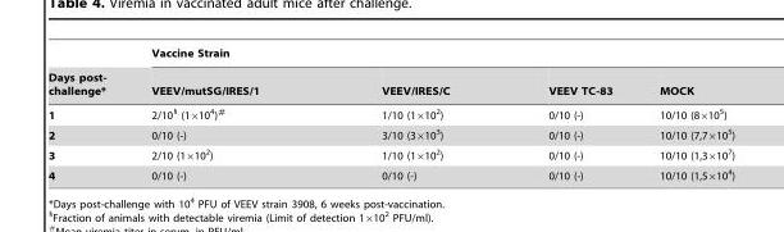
<table><thead><tr><td rowspan="2">Days post- challenge*</td><td colspan="4">Vaccine Strain</td></tr><tr><td>VEEV/mutSG/IRES/1</td><td>VEEV/IRES/C</td><td>VEEV TC-83</td><td>MOCK</td></tr></thead><tbody><tr><td>1</td><td>2/10§ (1×10<sup>4</sup>)#</td><td>1/10 (1×10<sup>2</sup>)</td><td>0/10 (-)</td><td>10/10 (8×10<sup>5</sup>)</td></tr><tr><td>2</td><td>0/10 (-)</td><td>3/10 (3×10<sup>3</sup>)</td><td>0/10 (-)</td><td>10/10 (7,7×10<sup>5</sup>)</td></tr><tr><td>3</td><td>2/10 (1×10<sup>2</sup>)</td><td>1/10 (1×10<sup>2</sup>)</td><td>0/10 (-)</td><td>10/10 (1,3×10<sup>7</sup>)</td></tr><tr><td>4</td><td>0/10 (-)</td><td>0/10 (-)</td><td>0/10 (-)</td><td>10/10 (1,5×10<sup>4</sup>)</td></tr></tbody></table>